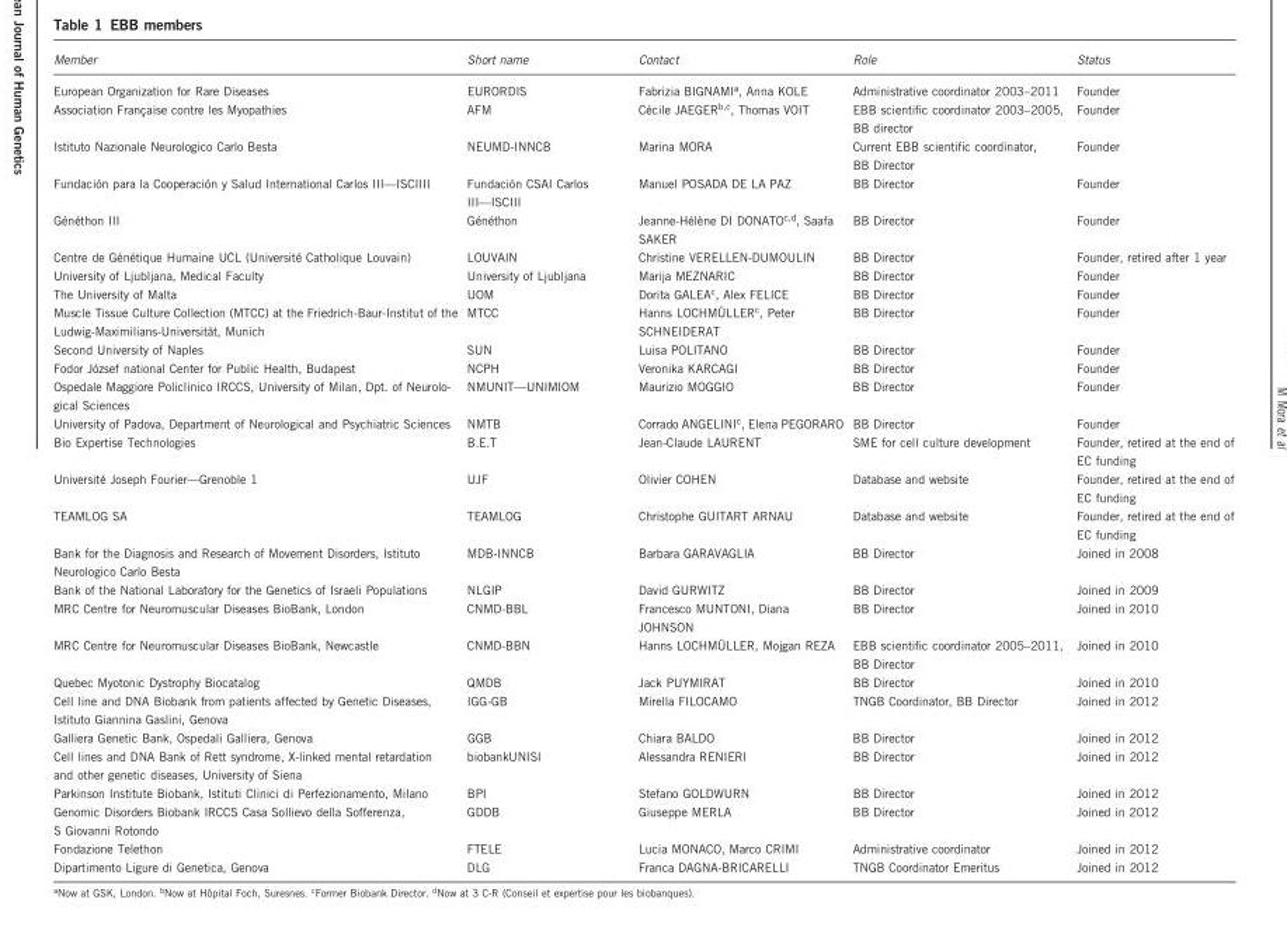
<table><thead><tr><td>Member</td><td>Short name</td><td>Contact</td><td>Role</td><td>Status</td></tr></thead><tbody><tr><td>European Organization for Rare Diseases</td><td>EURORDIS</td><td>Fabrizia BIGNAMI<sup>a</sup>, Anna KOLE</td><td>Administrative coordinator 2003–2011</td><td>Founder</td></tr><tr><td>Association Française contre les Myopathies</td><td>AFM</td><td>Cécile JAEGER<sup>b,c</sup>, Thomas VOIT</td><td>EBB scientific coordinator 2003–2005, BB director</td><td>Founder</td></tr><tr><td>Istituto Nazionale Neurologico Carlo Besta</td><td>NEUMD-INNCB</td><td>Marina MORA</td><td>Current EBB scientific coordinator, BB Director</td><td>Founder</td></tr><tr><td>Fundación para la Cooperación y Salud International Carlos III—ISCIIII</td><td>Fundación CSAI Carlos III—ISCIII</td><td>Manuel POSADA DE LA PAZ</td><td>BB Director</td><td>Founder</td></tr><tr><td>Généthon III</td><td>Généthon</td><td>Jeanne-Hélène DI DONATO<sup>c,d</sup>, Saafa SAKER</td><td>BB Director</td><td>Founder</td></tr><tr><td>Centre de Génétique Humaine UCL (Université Catholique Louvain)</td><td>LOUVAIN</td><td>Christine VERELLEN-DUMOULIN</td><td>BB Director</td><td>Founder, retired after 1 year</td></tr><tr><td>University of Ljubljana, Medical Faculty</td><td>University of Ljubljana</td><td>Marija MEZNARIC</td><td>BB Director</td><td>Founder</td></tr><tr><td>The University of Malta</td><td>UOM</td><td>Dorita GALEA<sup>c</sup>, Alex FELICE</td><td>BB Director</td><td>Founder</td></tr><tr><td>Muscle Tissue Culture Collection (MTCC) at the Friedrich-Baur-Institut of the Ludwig-Maximilians-Universität, Munich</td><td>MTCC</td><td>Hanns LOCHMÜLLER<sup>c</sup>, Peter SCHNEIDERAT</td><td>BB Director</td><td>Founder</td></tr><tr><td>Second University of Naples</td><td>SUN</td><td>Luisa POLITANO</td><td>BB Director</td><td>Founder</td></tr><tr><td>Fodor József national Center for Public Health, Budapest</td><td>NCPH</td><td>Veronika KARCAGI</td><td>BB Director</td><td>Founder</td></tr><tr><td>Ospedale Maggiore Policlinico IRCCS, University of Milan, Dpt. of Neurolo- gical Sciences</td><td>NMUNIT—UNIMIOM</td><td>Maurizio MOGGIO</td><td>BB Director</td><td>Founder</td></tr><tr><td>University of Padova, Department of Neurological and Psychiatric Sciences</td><td>NMTB</td><td>Corrado ANGELINI<sup>c</sup>, Elena PEGORARO</td><td>BB Director</td><td>Founder</td></tr><tr><td>Bio Expertise Technologies</td><td>B.E.T</td><td>Jean-Claude LAURENT</td><td>SME for cell culture development</td><td>Founder, retired at the end of EC funding</td></tr><tr><td>Université Joseph Fourier—Grenoble 1</td><td>UJF</td><td>Olivier COHEN</td><td>Database and website</td><td>Founder, retired at the end of EC funding</td></tr><tr><td>TEAMLOG SA</td><td>TEAMLOG</td><td>Christophe GUITART ARNAU</td><td>Database and website</td><td>Founder, retired at the end of EC funding</td></tr><tr><td>Bank for the Diagnosis and Research of Movement Disorders, Istituto Neurologico Carlo Besta</td><td>MDB-INNCB</td><td>Barbara GARAVAGLIA</td><td>BB Director</td><td>Joined in 2008</td></tr><tr><td>Bank of the National Laboratory for the Genetics of Israeli Populations</td><td>NLGIP</td><td>David GURWITZ</td><td>BB Director</td><td>Joined in 2009</td></tr><tr><td>MRC Centre for Neuromuscular Diseases BioBank, London</td><td>CNMD-BBL</td><td>Francesco MUNTONI, Diana JOHNSON</td><td>BB Director</td><td>Joined in 2010</td></tr><tr><td>MRC Centre for Neuromuscular Diseases BioBank, Newcastle</td><td>CNMD-BBN</td><td>Hanns LOCHMÜLLER, Mojgan REZA</td><td>EBB scientific coordinator 2005–2011, BB Director</td><td>Joined in 2010</td></tr><tr><td>Quebec Myotonic Dystrophy Biocatalog</td><td>QMDB</td><td>Jack PUYMIRAT</td><td>BB Director</td><td>Joined in 2010</td></tr><tr><td>Cell line and DNA Biobank from patients affected by Genetic Diseases, Istituto Giannina Gaslini, Genova</td><td>IGG-GB</td><td>Mirella FILOCAMO</td><td>TNGB Coordinator, BB Director</td><td>Joined in 2012</td></tr><tr><td>Galliera Genetic Bank, Ospedali Galliera, Genova</td><td>GGB</td><td>Chiara BALDO</td><td>BB Director</td><td>Joined in 2012</td></tr><tr><td>Cell lines and DNA Bank of Rett syndrome, X-linked mental retardation and other genetic diseases, University of Siena</td><td>biobankUNISI</td><td>Alessandra RENIERI</td><td>BB Director</td><td>Joined in 2012</td></tr><tr><td>Parkinson Institute Biobank, Istituti Clinici di Perfezionamento, Milano</td><td>BPI</td><td>Stefano GOLDWURN</td><td>BB Director</td><td>Joined in 2012</td></tr><tr><td>Genomic Disorders Biobank IRCCS Casa Sollievo della Sofferenza, S Giovanni Rotondo</td><td>GDDB</td><td>Giuseppe MERLA</td><td>BB Director</td><td>Joined in 2012</td></tr><tr><td>Fondazione Telethon</td><td>FTELE</td><td>Lucia MONACO, Marco CRIMI</td><td>Administrative coordinator</td><td>Joined in 2012</td></tr><tr><td>Dipartimento Ligure di Genetica, Genova</td><td>DLG</td><td>Franca DAGNA-BRICARELLI</td><td>TNGB Coordinator Emeritus</td><td>Joined in 2012</td></tr></tbody></table>